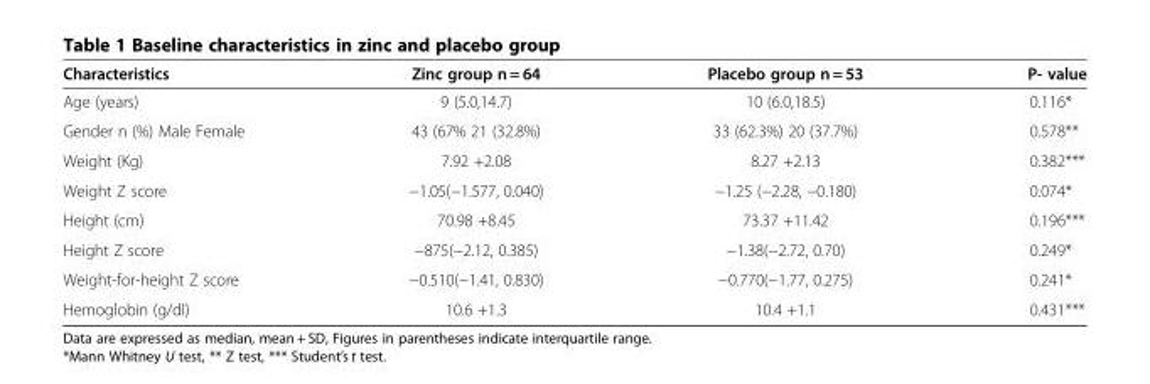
<table><thead><tr><td>Characteristics</td><td>Zinc group n = 64</td><td>Placebo group n = 53</td><td>P- value</td></tr></thead><tbody><tr><td>Age (years)</td><td>9 (5.0,14.7)</td><td>10 (6.0,18.5)</td><td>0.116*</td></tr><tr><td>Gender n (%) Male Female</td><td>43 (67% 21 (32.8%)</td><td>33 (62.3%) 20 (37.7%)</td><td>0.578**</td></tr><tr><td>Weight (Kg)</td><td>7.92 +2.08</td><td>8.27 +2.13</td><td>0.382***</td></tr><tr><td>Weight Z score</td><td>−1.05(−1.577, 0.040)</td><td>−1.25 (−2.28, −0.180)</td><td>0.074*</td></tr><tr><td>Height (cm)</td><td>70.98 +8.45</td><td>73.37 +11.42</td><td>0.196***</td></tr><tr><td>Height Z score</td><td>−875(−2.12, 0.385)</td><td>−1.38(−2.72, 0.70)</td><td>0.249*</td></tr><tr><td>Weight-for-height Z score</td><td>−0.510(−1.41, 0.830)</td><td>−0.770(−1.77, 0.275)</td><td>0.241*</td></tr><tr><td>Hemoglobin (g/dl)</td><td>10.6 +1.3</td><td>10.4 +1.1</td><td>0.431***</td></tr></tbody></table>